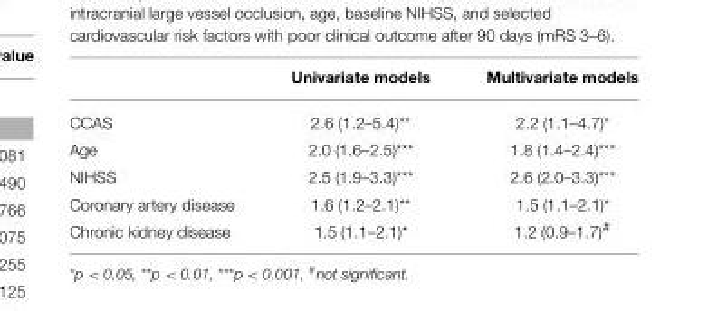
<table><thead><tr><td></td><td>Univariate models</td><td>Multivariate models</td></tr></thead><tbody><tr><td>CCAS</td><td>2.6 (1.2–5.4)**</td><td>2.2 (1.1–4.7)*</td></tr><tr><td>Age</td><td>2.0 (1.6–2.5)***</td><td>1.8 (1.4–2.4)***</td></tr><tr><td>NIHSS</td><td>2.5 (1.9–3.3)***</td><td>2.6 (2.0–3.3)***</td></tr><tr><td>Coronary artery disease</td><td>1.6 (1.2–2.1)**</td><td>1.5 (1.1–2.1)*</td></tr><tr><td>Chronic kidney disease</td><td>1.5 (1.1–2.1)*</td><td>1.2 (0.9–1.7)<sup>#</sup></td></tr></tbody></table>